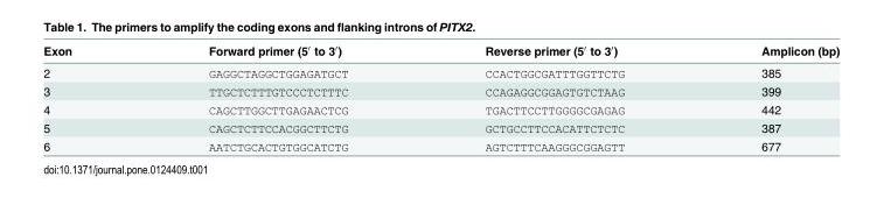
<table><thead><tr><td>Exon</td><td>Forward primer (5′ to 3′)</td><td>Reverse primer (5′ to 3′)</td><td>Amplicon (bp)</td></tr></thead><tbody><tr><td>2</td><td>GAGGCTAGGCTGGAGATGCT</td><td>CCACTGGCGATTTGGTTCTG</td><td>385</td></tr><tr><td>3</td><td>TTGCTCTTTGTCCCTCTTTC</td><td>CCAGAGGCGGAGTGTCTAAG</td><td>399</td></tr><tr><td>4</td><td>CAGCTTGGCTTGAGAACTCG</td><td>TGACTTCCTTGGGGCGAGAG</td><td>442</td></tr><tr><td>5</td><td>CAGCTCTTCCACGGCTTCTG</td><td>GCTGCCTTCCACATTCTCTC</td><td>387</td></tr><tr><td>6</td><td>AATCTGCACTGTGGCATCTG</td><td>AGTCTTTCAAGGGCGGAGTT</td><td>677</td></tr></tbody></table>